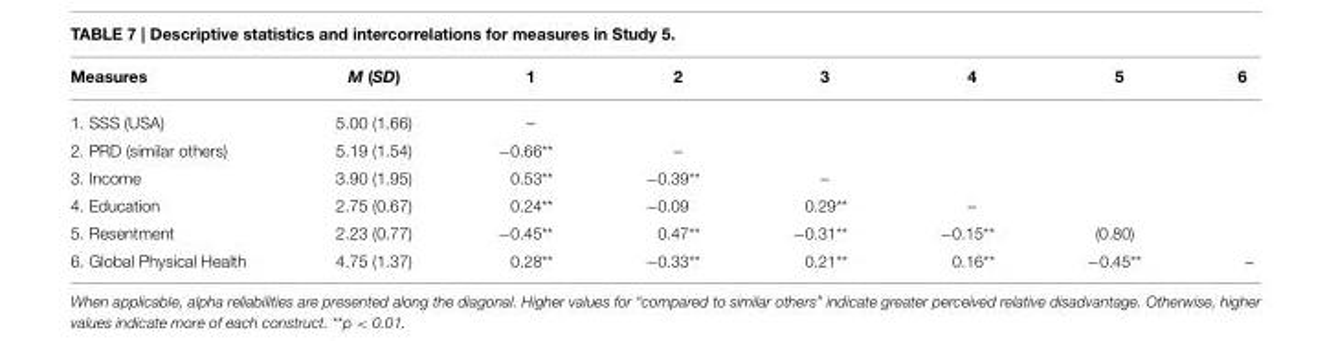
<table><thead><tr><td>Measures</td><td>M (SD)</td><td>1</td><td>2</td><td>3</td><td>4</td><td>5</td><td>6</td></tr></thead><tbody><tr><td>1. SSS (USA)</td><td>5.00 (1.66)</td><td>–</td><td></td><td></td><td></td><td></td><td></td></tr><tr><td>2. PRD (similar others)</td><td>5.19 (1.54)</td><td>−0.66**</td><td>–</td><td></td><td></td><td></td><td></td></tr><tr><td>3. Income</td><td>3.90 (1.95)</td><td>0.53**</td><td>−0.39**</td><td>–</td><td></td><td></td><td></td></tr><tr><td>4. Education</td><td>2.75 (0.67)</td><td>0.24**</td><td>−0.09</td><td>0.29**</td><td>–</td><td></td><td></td></tr><tr><td>5. Resentment</td><td>2.23 (0.77)</td><td>−0.45**</td><td>0.47**</td><td>−0.31**</td><td>−0.15**</td><td>(0.80)</td><td></td></tr><tr><td>6. Global Physical Health</td><td>4.75 (1.37)</td><td>0.28**</td><td>−0.33**</td><td>0.21**</td><td>0.16**</td><td>−0.45**</td><td>–</td></tr></tbody></table>